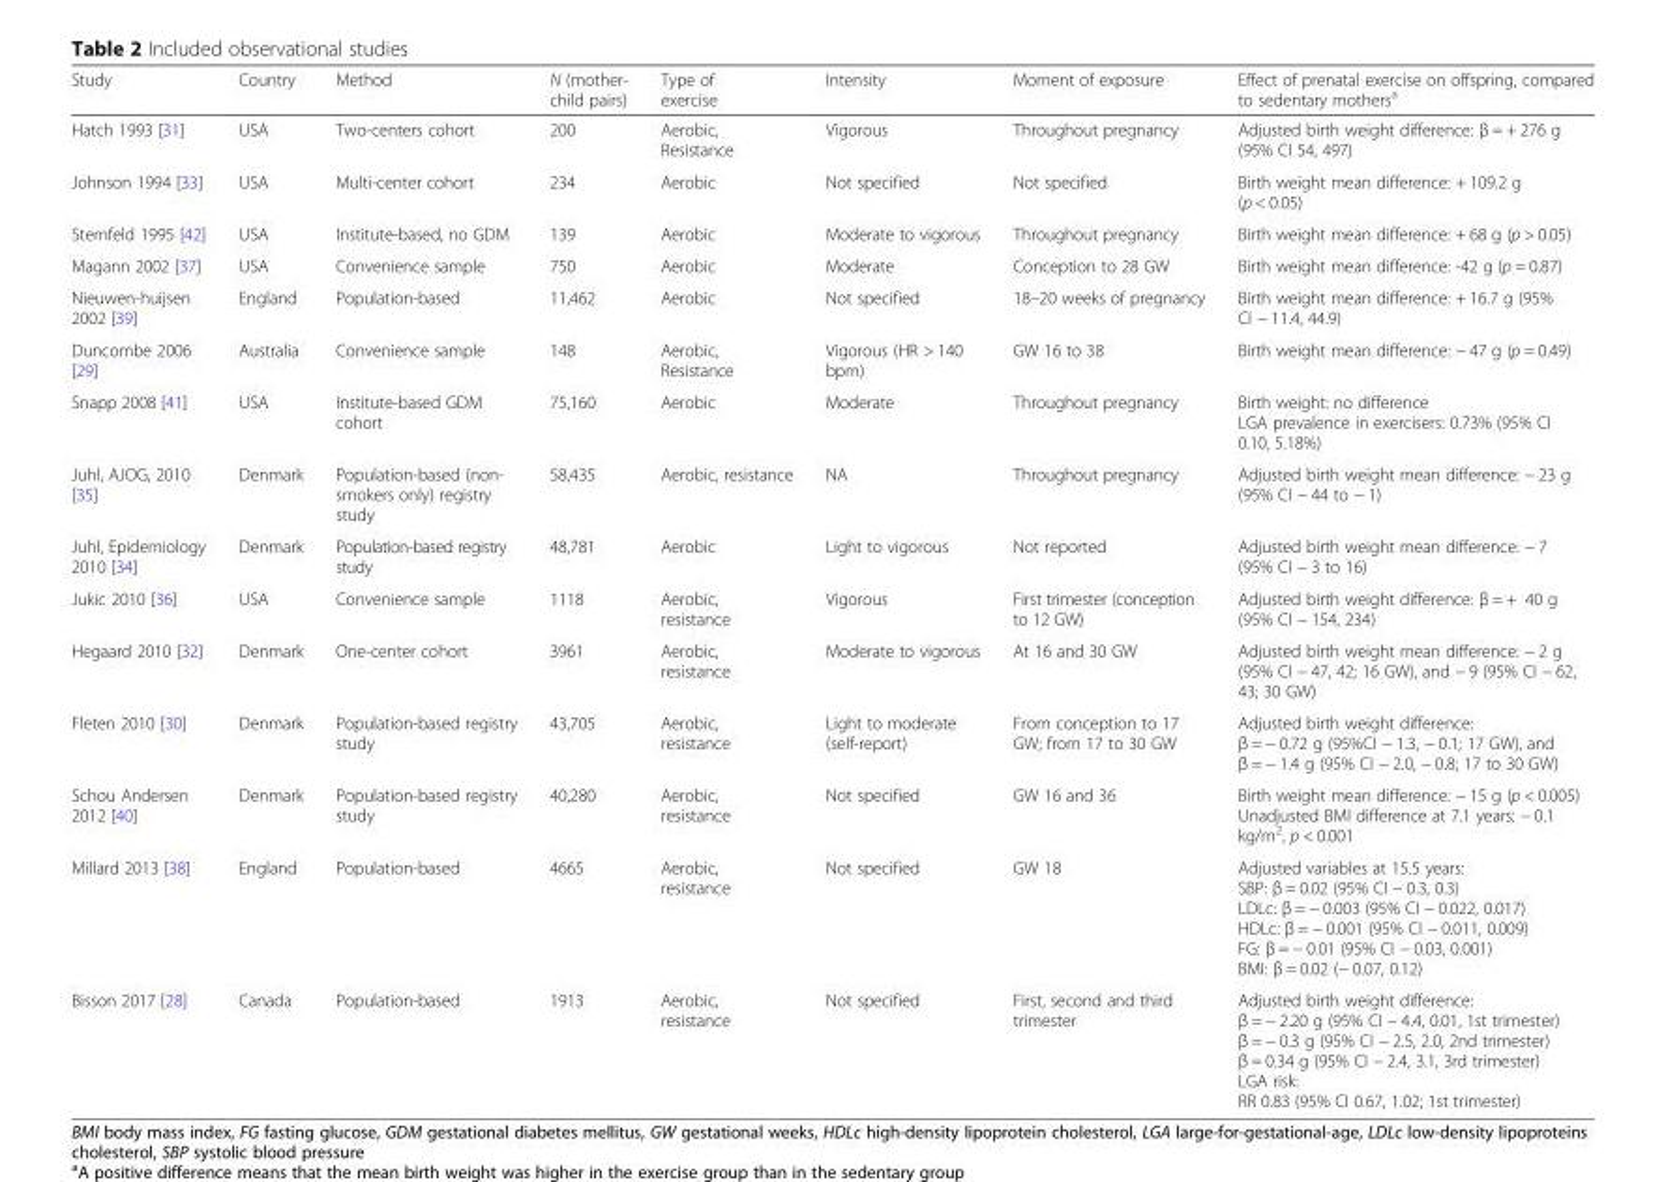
<table><thead><tr><td>Study</td><td>Country</td><td>Method</td><td>N (mother- child pairs)</td><td>Type of exercise</td><td>Intensity</td><td>Moment of exposure</td><td>Effect of prenatal exercise on offspring, compared to sedentary mothers<sup>a</sup></td></tr></thead><tbody><tr><td>Hatch 1993 [31]</td><td>USA</td><td>Two-centers cohort</td><td>200</td><td>Aerobic, Resistance</td><td>Vigorous</td><td>Throughout pregnancy</td><td>Adjusted birth weight difference: β = + 276 g (95% CI 54, 497)</td></tr><tr><td>Johnson 1994 [33]</td><td>USA</td><td>Multi-center cohort</td><td>234</td><td>Aerobic</td><td>Not specified</td><td>Not specified</td><td>Birth weight mean difference: + 109.2 g (p &lt; 0.05)</td></tr><tr><td>Sternfeld 1995 [42]</td><td>USA</td><td>Institute-based, no GDM</td><td>139</td><td>Aerobic</td><td>Moderate to vigorous</td><td>Throughout pregnancy</td><td>Birth weight mean difference: + 68 g (p &gt; 0.05)</td></tr><tr><td>Magann 2002 [37]</td><td>USA</td><td>Convenience sample</td><td>750</td><td>Aerobic</td><td>Moderate</td><td>Conception to 28 GW</td><td>Birth weight mean difference: -42 g (p = 0.87)</td></tr><tr><td>Nieuwen-huijsen 2002 [39]</td><td>England</td><td>Population-based</td><td>11,462</td><td>Aerobic</td><td>Not specified</td><td>18–20 weeks of pregnancy</td><td>Birth weight mean difference: + 16.7 g (95% CI − 11.4, 44.9)</td></tr><tr><td>Duncombe 2006 [29]</td><td>Australia</td><td>Convenience sample</td><td>148</td><td>Aerobic, Resistance</td><td>Vigorous (HR &gt; 140 bpm)</td><td>GW 16 to 38</td><td>Birth weight mean difference: − 47 g (p = 0.49)</td></tr><tr><td>Snapp 2008 [41]</td><td>USA</td><td>Institute-based GDM cohort</td><td>75,160</td><td>Aerobic</td><td>Moderate</td><td>Throughout pregnancy</td><td>Birth weight: no difference LGA prevalence in exercisers: 0.73% (95% CI 0.10, 5.18%)</td></tr><tr><td>Juhl, AJOG, 2010 [35]</td><td>Denmark</td><td>Population-based (non- smokers only) registry study</td><td>58,435</td><td>Aerobic, resistance</td><td>NA</td><td>Throughout pregnancy</td><td>Adjusted birth weight mean difference: − 23 g (95% CI − 44 to − 1)</td></tr><tr><td>Juhl, Epidemiology 2010 [34]</td><td>Denmark</td><td>Population-based registry study</td><td>48,781</td><td>Aerobic</td><td>Light to vigorous</td><td>Not reported</td><td>Adjusted birth weight mean difference: − 7 (95% CI − 3 to 16)</td></tr><tr><td>Jukic 2010 [36]</td><td>USA</td><td>Convenience sample</td><td>1118</td><td>Aerobic, resistance</td><td>Vigorous</td><td>First trimester (conception to 12 GW)</td><td>Adjusted birth weight difference: β = + 40 g (95% CI − 154, 234)</td></tr><tr><td>Hegaard 2010 [32]</td><td>Denmark</td><td>One-center cohort</td><td>3961</td><td>Aerobic, resistance</td><td>Moderate to vigorous</td><td>At 16 and 30 GW</td><td>Adjusted birth weight mean difference: − 2 g (95% CI − 47, 42; 16 GW), and − 9 (95% CI − 62, 43; 30 GW)</td></tr><tr><td>Fleten 2010 [30]</td><td>Denmark</td><td>Population-based registry study</td><td>43,705</td><td>Aerobic, resistance</td><td>Light to moderate (self-report)</td><td>From conception to 17 GW; from 17 to 30 GW</td><td>Adjusted birth weight difference: β = − 0.72 g (95%CI − 1.3, − 0.1; 17 GW), and β = − 1.4 g (95% CI − 2.0, − 0.8; 17 to 30 GW)</td></tr><tr><td>Schou Andersen 2012 [40]</td><td>Denmark</td><td>Population-based registry study</td><td>40,280</td><td>Aerobic, resistance</td><td>Not specified</td><td>GW 16 and 36</td><td>Birth weight mean difference: − 15 g (p &lt; 0.005) Unadjusted BMI difference at 7.1 years: − 0.1 kg/m<sup>2</sup>, p &lt; 0.001</td></tr><tr><td>Millard 2013 [38]</td><td>England</td><td>Population-based</td><td>4665</td><td>Aerobic, resistance</td><td>Not specified</td><td>GW 18</td><td>Adjusted variables at 15.5 years: SBP: β = 0.02 (95% CI − 0.3, 0.3) LDLc: β = − 0.003 (95% CI − 0.022, 0.017) HDLc: β = − 0.001 (95% CI − 0.011, 0.009) FG: β = − 0.01 (95% CI − 0.03, 0.001) BMI: β = 0.02 (− 0.07, 0.12)</td></tr><tr><td>Bisson 2017 [28]</td><td>Canada</td><td>Population-based</td><td>1913</td><td>Aerobic, resistance</td><td>Not specified</td><td>First, second and third trimester</td><td>Adjusted birth weight difference: β = − 2.20 g (95% CI − 4.4, 0.01, 1st trimester) β = − 0.3 g (95% CI − 2.5, 2.0, 2nd trimester) β = 0.34 g (95% CI − 2.4, 3.1, 3rd trimester) LGA risk: RR 0.83 (95% CI 0.67, 1.02; 1st trimester)</td></tr></tbody></table>